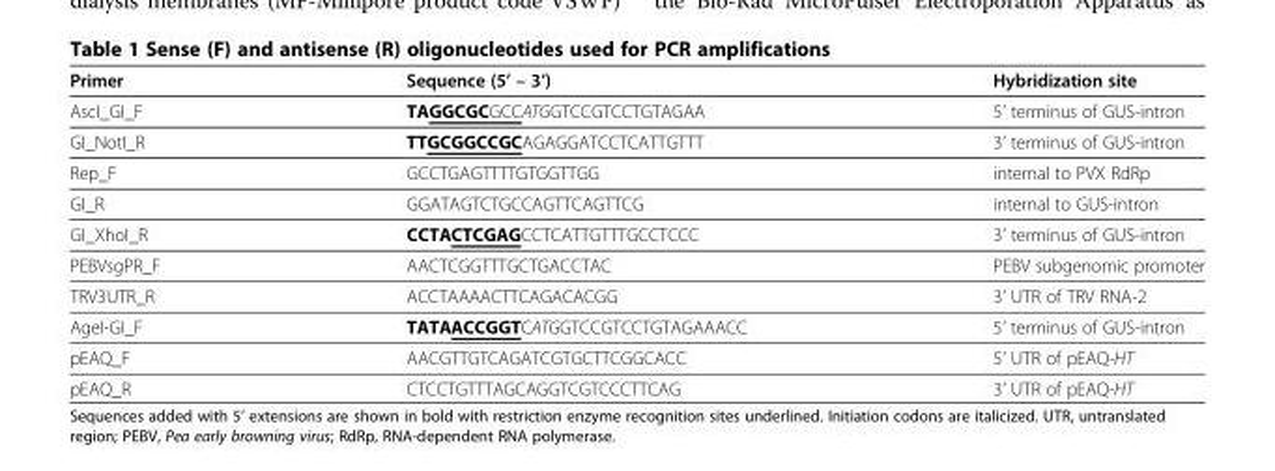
<table><thead><tr><td>Primer</td><td>Sequence (5’ – 3’)</td><td>Hybridization site</td></tr></thead><tbody><tr><td>AscI_GI_F</td><td>TAGGCGCGCCATGGTCCGTCCTGTAGAA</td><td>5’ terminus of GUS-intron</td></tr><tr><td>GI_NotI_R</td><td>TTGCGGCCGCAGAGGATCCTCATTGTTT</td><td>3’ terminus of GUS-intron</td></tr><tr><td>Rep_F</td><td>GCCTGAGTTTTGTGGTTGG</td><td>internal to PVX RdRp</td></tr><tr><td>GI_R</td><td>GGATAGTCTGCCAGTTCAGTTCG</td><td>internal to GUS-intron</td></tr><tr><td>GI_XhoI_R</td><td>CCTACTCGAGCCTCATTGTTTGCCTCCC</td><td>3’ terminus of GUS-intron</td></tr><tr><td>PEBVsgPR_F</td><td>AACTCGGTTTGCTGACCTAC</td><td>PEBV subgenomic promoter</td></tr><tr><td>TRV3UTR_R</td><td>ACCTAAAACTTCAGACACGG</td><td>3’ UTR of TRV RNA-2</td></tr><tr><td>AgeI-GI_F</td><td>TATAACCGGTCATGGTCCGTCCTGTAGAAACC</td><td>5’ terminus of GUS-intron</td></tr><tr><td>pEAQ_F</td><td>AACGTTGTCAGATCGTGCTTCGGCACC</td><td>5’ UTR of pEAQ-HT</td></tr><tr><td>pEAQ_R</td><td>CTCCTGTTTAGCAGGTCGTCCCTTCAG</td><td>3’ UTR of pEAQ-HT</td></tr></tbody></table>